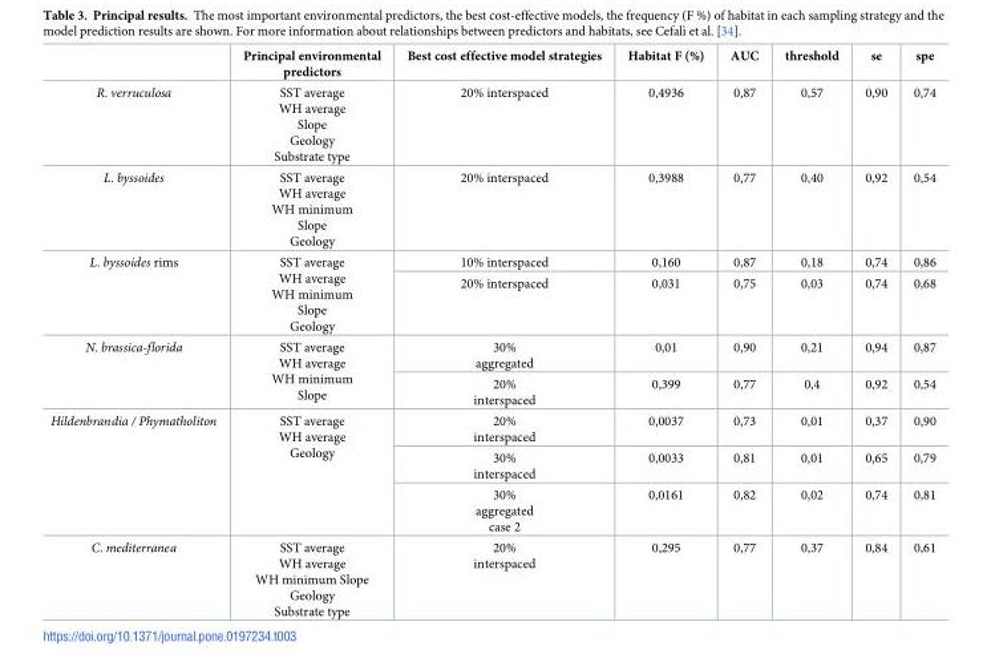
<table><thead><tr><td></td><td>Principal environmental predictors</td><td>Best cost effective model strategies</td><td>Habitat F (%)</td><td>AUC</td><td>threshold</td><td>se</td><td>spe</td></tr></thead><tbody><tr><td>R. verruculosa</td><td>SST average WH average Slope Geology Substrate type</td><td>20% interspaced</td><td>0,4936</td><td>0,87</td><td>0,57</td><td>0,90</td><td>0,74</td></tr><tr><td>L. byssoides</td><td>SST average WH average WH minimum Slope Geology</td><td>20% interspaced</td><td>0,3988</td><td>0,77</td><td>0,40</td><td>0,92</td><td>0,54</td></tr><tr><td rowspan="2">L. byssoides rims</td><td rowspan="2">SST average WH average WH minimum Slope Geology</td><td>10% interspaced</td><td>0,160</td><td>0,87</td><td>0,18</td><td>0,74</td><td>0,86</td></tr><tr><td>20% interspaced</td><td>0,031</td><td>0,75</td><td>0,03</td><td>0,74</td><td>0,68</td></tr><tr><td rowspan="2">N. brassica-florida</td><td rowspan="2">SST average WH average WH minimum Slope</td><td>30% aggregated</td><td>0,01</td><td>0,90</td><td>0,21</td><td>0,94</td><td>0,87</td></tr><tr><td>20% interspaced</td><td>0,399</td><td>0,77</td><td>0,4</td><td>0,92</td><td>0,54</td></tr><tr><td rowspan="3">Hildenbrandia / Phymatholiton</td><td rowspan="3">SST average WH average Geology</td><td>20% interspaced</td><td>0,0037</td><td>0,73</td><td>0,01</td><td>0,37</td><td>0,90</td></tr><tr><td>30% interspaced</td><td>0,0033</td><td>0,81</td><td>0,01</td><td>0,65</td><td>0,79</td></tr><tr><td>30% aggregated case 2</td><td>0,0161</td><td>0,82</td><td>0,02</td><td>0,74</td><td>0,81</td></tr><tr><td>C. mediterranea</td><td>SST average WH average WH minimum Slope Geology Substrate type</td><td>20% interspaced</td><td>0,295</td><td>0,77</td><td>0,37</td><td>0,84</td><td>0,61</td></tr></tbody></table>